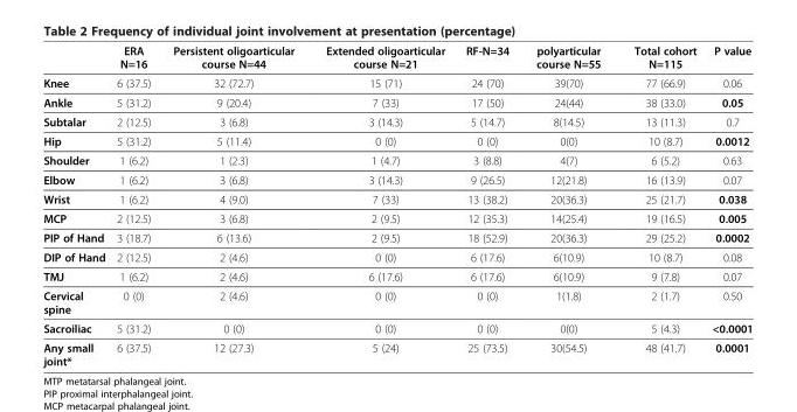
<table><thead><tr><td></td><td>ERA N=16</td><td>Persistent oligoarticular course N=44</td><td>Extended oligoarticular course N=21</td><td>RF-N=34</td><td>polyarticular course N=55</td><td>Total cohort N=115</td><td>P value</td></tr></thead><tbody><tr><td>Knee</td><td>6 (37.5)</td><td>32 (72.7)</td><td>15 (71)</td><td>24 (70)</td><td>39(70)</td><td>77 (66.9)</td><td>0.06</td></tr><tr><td>Ankle</td><td>5 (31.2)</td><td>9 (20.4)</td><td>7 (33)</td><td>17 (50)</td><td>24(44)</td><td>38 (33.0)</td><td>0.05</td></tr><tr><td>Subtalar</td><td>2 (12.5)</td><td>3 (6.8)</td><td>3 (14.3)</td><td>5 (14.7)</td><td>8(14.5)</td><td>13 (11.3)</td><td>0.7</td></tr><tr><td>Hip</td><td>5 (31.2)</td><td>5 (11.4)</td><td>0 (0)</td><td>0 (0)</td><td>0(0)</td><td>10 (8.7)</td><td>0.0012</td></tr><tr><td>Shoulder</td><td>1 (6.2)</td><td>1 (2.3)</td><td>1 (4.7)</td><td>3 (8.8)</td><td>4(7)</td><td>6 (5.2)</td><td>0.63</td></tr><tr><td>Elbow</td><td>1 (6.2)</td><td>3 (6.8)</td><td>3 (14.3)</td><td>9 (26.5)</td><td>12(21.8)</td><td>16 (13.9)</td><td>0.07</td></tr><tr><td>Wrist</td><td>1 (6.2)</td><td>4 (9.0)</td><td>7 (33)</td><td>13 (38.2)</td><td>20(36.3)</td><td>25 (21.7)</td><td>0.038</td></tr><tr><td>MCP</td><td>2 (12.5)</td><td>3 (6.8)</td><td>2 (9.5)</td><td>12 (35.3)</td><td>14(25.4)</td><td>19 (16.5)</td><td>0.005</td></tr><tr><td>PIP of Hand</td><td>3 (18.7)</td><td>6 (13.6)</td><td>2 (9.5)</td><td>18 (52.9)</td><td>20(36.3)</td><td>29 (25.2)</td><td>0.0002</td></tr><tr><td>DIP of Hand</td><td>2 (12.5)</td><td>2 (4.6)</td><td>0 (0)</td><td>6 (17.6)</td><td>6(10.9)</td><td>10 (8.7)</td><td>0.08</td></tr><tr><td>TMJ</td><td>1 (6.2)</td><td>2 (4.6)</td><td>6 (17.6)</td><td>6 (17.6)</td><td>6(10.9)</td><td>9 (7.8)</td><td>0.07</td></tr><tr><td>Cervical spine</td><td>0 (0)</td><td>2 (4.6)</td><td>0 (0)</td><td>0 (0)</td><td>1(1.8)</td><td>2 (1.7)</td><td>0.50</td></tr><tr><td>Sacroiliac</td><td>5 (31.2)</td><td>0 (0)</td><td>0 (0)</td><td>0 (0)</td><td>0(0)</td><td>5 (4.3)</td><td>&lt;0.0001</td></tr><tr><td>Any small joint*</td><td>6 (37.5)</td><td>12 (27.3)</td><td>5 (24)</td><td>25 (73.5)</td><td>30(54.5)</td><td>48 (41.7)</td><td>0.0001</td></tr></tbody></table>